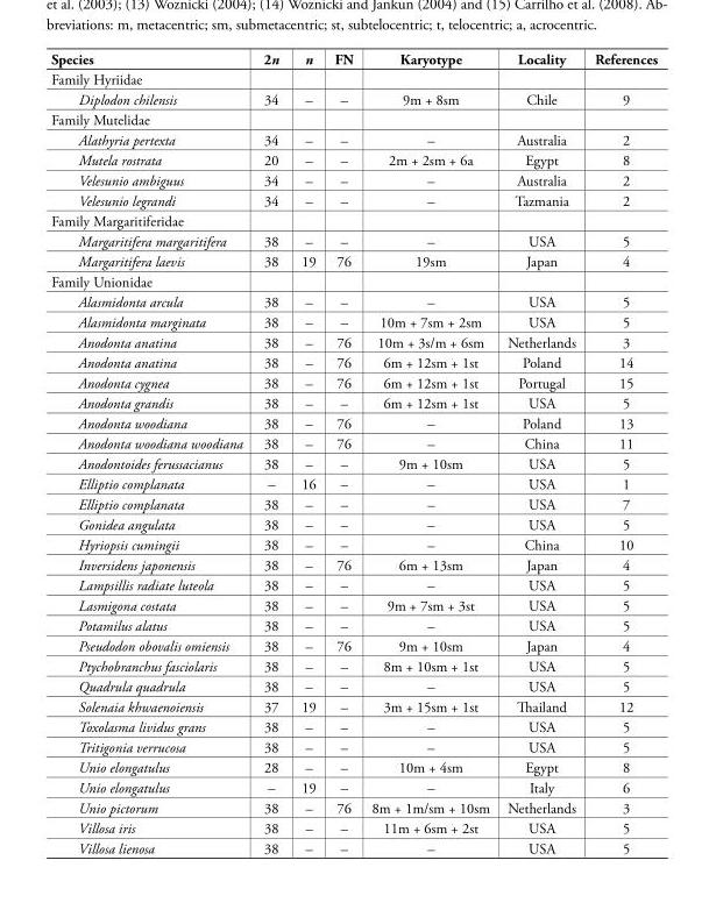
<table><thead><tr><td>Species</td><td>2n</td><td>n</td><td>FN</td><td>Karyotype</td><td>Locality</td><td>References</td></tr></thead><tbody><tr><td colspan="7">Family Hyriidae</td></tr><tr><td>Diplodon chilensis</td><td>34</td><td>–</td><td>–</td><td>9m + 8sm</td><td>Chile</td><td>9</td></tr><tr><td colspan="7">Family Mutelidae</td></tr><tr><td>Alathyria pertexta</td><td>34</td><td>–</td><td>–</td><td>–</td><td>Australia</td><td>2</td></tr><tr><td>Mutela rostrata</td><td>20</td><td>–</td><td>–</td><td>2m + 2sm + 6a</td><td>Egypt</td><td>8</td></tr><tr><td>Velesunio ambiguus</td><td>34</td><td>–</td><td>–</td><td>–</td><td>Australia</td><td>2</td></tr><tr><td>Velesunio legrandi</td><td>34</td><td>–</td><td>–</td><td>–</td><td>Tazmania</td><td>2</td></tr><tr><td colspan="7">Family Margaritiferidae</td></tr><tr><td>Margaritifera margaritifera</td><td>38</td><td>–</td><td>–</td><td>–</td><td>USA</td><td>5</td></tr><tr><td>Margaritifera laevis</td><td>38</td><td>19</td><td>76</td><td>19sm</td><td>Japan</td><td>4</td></tr><tr><td colspan="7">Family Unionidae</td></tr><tr><td>Alasmidonta arcula</td><td>38</td><td>–</td><td>–</td><td>–</td><td>USA</td><td>5</td></tr><tr><td>Alasmidonta marginata</td><td>38</td><td>–</td><td>–</td><td>10m + 7sm + 2sm</td><td>USA</td><td>5</td></tr><tr><td>Anodonta anatina</td><td>38</td><td>–</td><td>76</td><td>10m + 3s/m + 6sm</td><td>Netherlands</td><td>3</td></tr><tr><td>Anodonta anatina</td><td>38</td><td>–</td><td>76</td><td>6m + 12sm + 1st</td><td>Poland</td><td>14</td></tr><tr><td>Anodonta cygnea</td><td>38</td><td>–</td><td>76</td><td>6m + 12sm + 1st</td><td>Portugal</td><td>15</td></tr><tr><td>Anodonta grandis</td><td>38</td><td>–</td><td>–</td><td>6m + 12sm + 1st</td><td>USA</td><td>5</td></tr><tr><td>Anodonta woodiana</td><td>38</td><td>–</td><td>76</td><td>–</td><td>Poland</td><td>13</td></tr><tr><td>Anodonta woodiana woodiana</td><td>38</td><td>–</td><td>76</td><td>–</td><td>China</td><td>11</td></tr><tr><td>Anodontoides ferussacianus</td><td>38</td><td>–</td><td>–</td><td>9m + 10sm</td><td>USA</td><td>5</td></tr><tr><td>Elliptio complanata</td><td>–</td><td>16</td><td>–</td><td>–</td><td>USA</td><td>1</td></tr><tr><td>Elliptio complanata</td><td>38</td><td>–</td><td>–</td><td>–</td><td>USA</td><td>7</td></tr><tr><td>Gonidea angulata</td><td>38</td><td>–</td><td>–</td><td>–</td><td>USA</td><td>5</td></tr><tr><td>Hyriopsis cumingii</td><td>38</td><td>–</td><td>–</td><td>–</td><td>China</td><td>10</td></tr><tr><td>Inversidens japonensis</td><td>38</td><td>–</td><td>76</td><td>6m + 13sm</td><td>Japan</td><td>4</td></tr><tr><td>Lampsillis radiate luteola</td><td>38</td><td>–</td><td>–</td><td>–</td><td>USA</td><td>5</td></tr><tr><td>Lasmigona costata</td><td>38</td><td>–</td><td>–</td><td>9m + 7sm + 3st</td><td>USA</td><td>5</td></tr><tr><td>Potamilus alatus</td><td>38</td><td>–</td><td>–</td><td>–</td><td>USA</td><td>5</td></tr><tr><td>Pseudodon obovalis omiensis</td><td>38</td><td>–</td><td>76</td><td>9m + 10sm</td><td>Japan</td><td>4</td></tr><tr><td>Ptychobranchus fasciolaris</td><td>38</td><td>–</td><td>–</td><td>8m + 10sm + 1st</td><td>USA</td><td>5</td></tr><tr><td>Quadrula quadrula</td><td>38</td><td>–</td><td>–</td><td>–</td><td>USA</td><td>5</td></tr><tr><td>Solenaia khwaenoiensis</td><td>37</td><td>19</td><td>–</td><td>3m + 15sm + 1st</td><td>Thailand</td><td>12</td></tr><tr><td>Toxolasma lividus grans</td><td>38</td><td>–</td><td>–</td><td>–</td><td>USA</td><td>5</td></tr><tr><td>Tritigonia verrucosa</td><td>38</td><td>–</td><td>–</td><td>–</td><td>USA</td><td>5</td></tr><tr><td>Unio elongatulus</td><td>28</td><td>–</td><td>–</td><td>10m + 4sm</td><td>Egypt</td><td>8</td></tr><tr><td>Unio elongatulus</td><td>–</td><td>19</td><td>–</td><td>–</td><td>Italy</td><td>6</td></tr><tr><td>Unio pictorum</td><td>38</td><td>–</td><td>76</td><td>8m + 1m/sm + 10sm</td><td>Netherlands</td><td>3</td></tr><tr><td>Villosa iris</td><td>38</td><td>–</td><td>–</td><td>11m + 6sm + 2st</td><td>USA</td><td>5</td></tr><tr><td>Villosa lienosa</td><td>38</td><td>–</td><td>–</td><td>–</td><td>USA</td><td>5</td></tr></tbody></table>